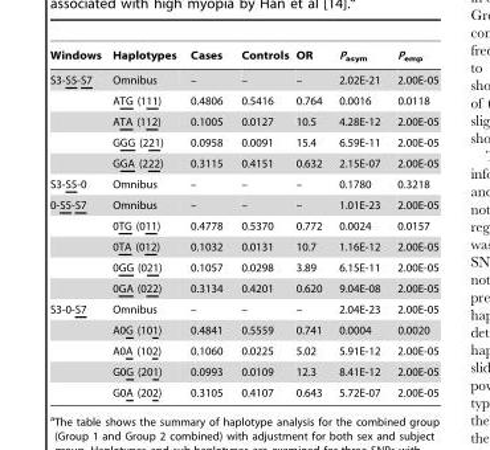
<table><thead><tr><td>Windows</td><td>Haplotypes</td><td>Cases</td><td>Controls</td><td>OR</td><td>P<sub>asym</sub></td><td>P<sub>emp</sub></td></tr></thead><tbody><tr><td rowspan="5">S3-S5-S7</td><td>Omnibus</td><td>–</td><td>–</td><td>–</td><td>2.02E-21</td><td>2.00E-05</td></tr><tr><td>ATG (111)</td><td>0.4806</td><td>0.5416</td><td>0.764</td><td>0.0016</td><td>0.0118</td></tr><tr><td>ATA (112)</td><td>0.1005</td><td>0.0127</td><td>10.5</td><td>4.28E-12</td><td>2.00E-05</td></tr><tr><td>GGG (221)</td><td>0.0958</td><td>0.0091</td><td>15.4</td><td>6.59E-11</td><td>2.00E-05</td></tr><tr><td>GGA (222)</td><td>0.3115</td><td>0.4151</td><td>0.632</td><td>2.15E-07</td><td>2.00E-05</td></tr><tr><td>S3-S5-0</td><td>Omnibus</td><td>–</td><td>–</td><td>–</td><td>0.1780</td><td>0.3218</td></tr><tr><td rowspan="5">0-S5-S7</td><td>Omnibus</td><td>–</td><td>–</td><td>–</td><td>1.01E-23</td><td>2.00E-05</td></tr><tr><td>0TG (011)</td><td>0.4778</td><td>0.5370</td><td>0.772</td><td>0.0024</td><td>0.0157</td></tr><tr><td>0TA (012)</td><td>0.1032</td><td>0.0131</td><td>10.7</td><td>1.16E-12</td><td>2.00E-05</td></tr><tr><td>0GG (021)</td><td>0.1057</td><td>0.0298</td><td>3.89</td><td>6.15E-11</td><td>2.00E-05</td></tr><tr><td>0GA (022)</td><td>0.3134</td><td>0.4201</td><td>0.620</td><td>9.04E-08</td><td>2.00E-05</td></tr><tr><td rowspan="5">S3-0-S7</td><td>Omnibus</td><td>–</td><td>–</td><td>–</td><td>2.04E-23</td><td>2.00E-05</td></tr><tr><td>A0G (101)</td><td>0.4841</td><td>0.5559</td><td>0.741</td><td>0.0004</td><td>0.0020</td></tr><tr><td>A0A (102)</td><td>0.1060</td><td>0.0225</td><td>5.02</td><td>5.91E-12</td><td>2.00E-05</td></tr><tr><td>G0G (201)</td><td>0.0993</td><td>0.0109</td><td>12.3</td><td>8.41E-12</td><td>2.00E-05</td></tr><tr><td>G0A (202)</td><td>0.3105</td><td>0.4107</td><td>0.643</td><td>5.72E-07</td><td>2.00E-05</td></tr></tbody></table>